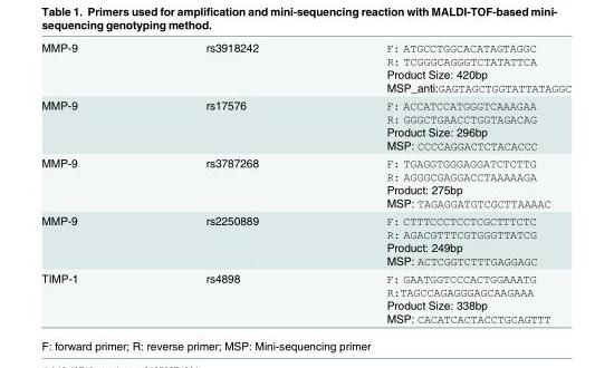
<table><tbody><tr><td>MMP-9</td><td>rs3918242</td><td>F: ATGCCTGGCACATAGTAGGC R: TCGGGCAGGGTCTATATTCA Product Size: 420bp MSP_anti:GAGTAGCTGGTATTATAGGC</td></tr><tr><td>MMP-9</td><td>rs17576</td><td>F: ACCATCCATGGGTCAAAGAA R: GGGCTGAACCTGGTAGACAG Product Size: 296bp MSP: CCCCAGGACTCTACACCC</td></tr><tr><td>MMP-9</td><td>rs3787268</td><td>F: TGAGGTGGGAGGATCTCTTG R: AGGGCGAGGACCTAAAAAGA Product: 275bp MSP: TAGAGGATGTCGCTTAAAAC</td></tr><tr><td>MMP-9</td><td>rs2250889</td><td>F: CTTTCCCTCCTCGCTTTCTC R: AGACGTTTCGTGGGTTATCG Product: 249bp MSP: ACTCGGTCTTTGAGGAGC</td></tr><tr><td>TIMP-1</td><td>rs4898</td><td>F: GAATGGTCCCACTGGAAATG R:TAGCCAGAGGGAGCAAGAAA Product Size: 338bp MSP: CACATCACTACCTGCAGTTT</td></tr></tbody></table>